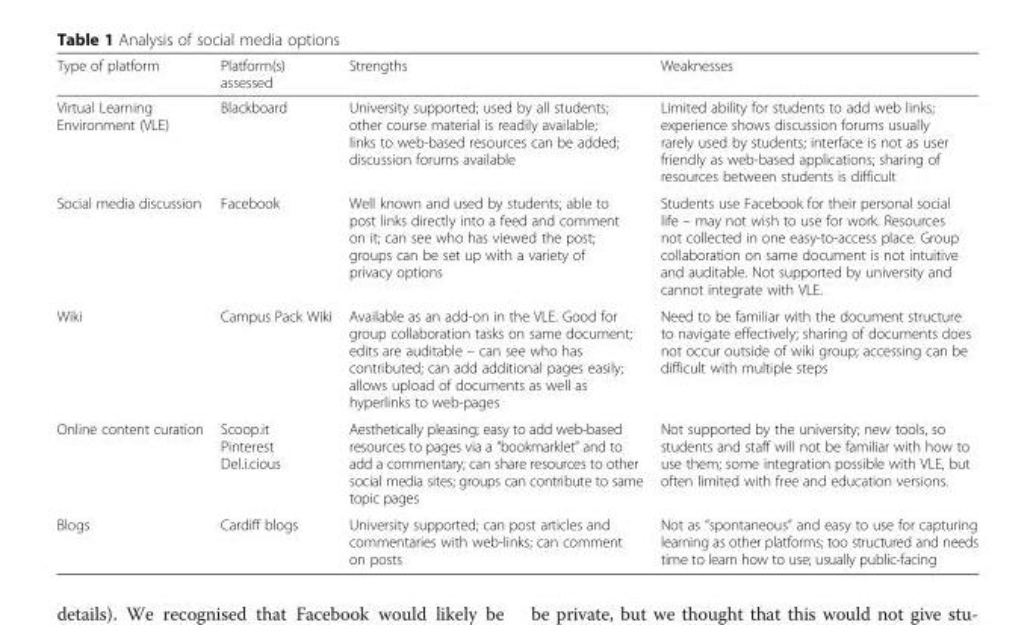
<table><thead><tr><td>Type of platform</td><td>Platform(s) assessed</td><td>Strengths</td><td>Weaknesses</td></tr></thead><tbody><tr><td>Virtual Learning Environment (VLE)</td><td>Blackboard</td><td>University supported; used by all students; other course material is readily available; links to web-based resources can be added; discussion forums available</td><td>Limited ability for students to add web links; experience shows discussion forums usually rarely used by students; interface is not as user friendly as web-based applications; sharing of resources between students is difficult</td></tr><tr><td>Social media discussion</td><td>Facebook</td><td>Well known and used by students; able to post links directly into a feed and comment on it; can see who has viewed the post; groups can be set up with a variety of privacy options</td><td>Students use Facebook for their personal social life – may not wish to use for work. Resources not collected in one easy-to-access place. Group collaboration on same document is not intuitive and auditable. Not supported by university and cannot integrate with VLE.</td></tr><tr><td>Wiki</td><td>Campus Pack Wiki</td><td>Available as an add-on in the VLE. Good for group collaboration tasks on same document; edits are auditable – can see who has contributed; can add additional pages easily; allows upload of documents as well as hyperlinks to web-pages</td><td>Need to be familiar with the document structure to navigate effectively; sharing of documents does not occur outside of wiki group; accessing can be difficult with multiple steps</td></tr><tr><td>Online content curation</td><td>Scoop.it Pinterest Del.i.cious</td><td>Aesthetically pleasing; easy to add web-based resources to pages via a “bookmarklet” and to add a commentary; can share resources to other social media sites; groups can contribute to same topic pages</td><td>Not supported by the university; new tools, so students and staff will not be familiar with how to use them; some integration possible with VLE, but often limited with free and education versions.</td></tr><tr><td>Blogs</td><td>Cardiff blogs</td><td>University supported; can post articles and commentaries with web-links; can comment on posts</td><td>Not as “spontaneous” and easy to use for capturing learning as other platforms; too structured and needs time to learn how to use; usually public-facing</td></tr></tbody></table>